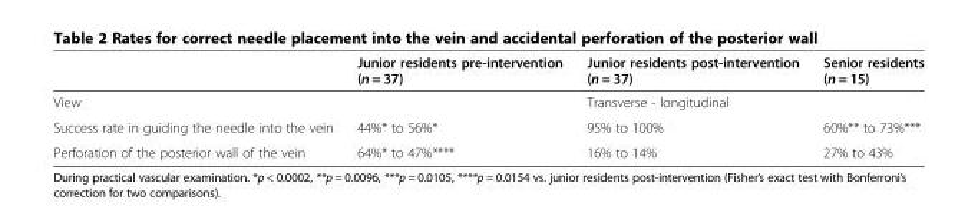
<table><thead><tr><td></td><td>Junior residents pre-intervention (n = 37)</td><td>Junior residents post-intervention (n = 37)</td><td>Senior residents (n = 15)</td></tr></thead><tbody><tr><td>View</td><td></td><td>Transverse - longitudinal</td><td></td></tr><tr><td>Success rate in guiding the needle into the vein</td><td>44%* to 56%*</td><td>95% to 100%</td><td>60%** to 73%***</td></tr><tr><td>Perforation of the posterior wall of the vein</td><td>64%* to 47%****</td><td>16% to 14%</td><td>27% to 43%</td></tr></tbody></table>